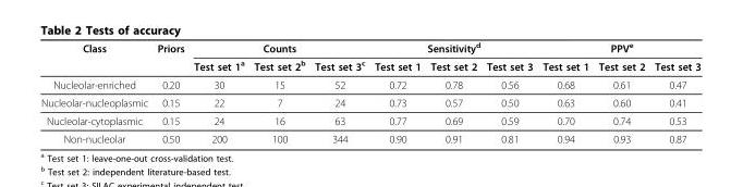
<table><thead><tr><td rowspan="2">Class</td><td rowspan="2">Priors</td><td colspan="3">Counts</td><td colspan="3">Sensitivity<sup>d</sup></td><td colspan="3">PPV<sup>e</sup></td></tr><tr><td>Test set 1<sup>a</sup></td><td>Test set 2<sup>b</sup></td><td>Test set 3<sup>c</sup></td><td>Test set 1</td><td>Test set 2</td><td>Test set 3</td><td>Test set 1</td><td>Test set 2</td><td>Test set 3</td></tr></thead><tbody><tr><td>Nucleolar-enriched</td><td>0.20</td><td>30</td><td>15</td><td>52</td><td>0.72</td><td>0.78</td><td>0.56</td><td>0.68</td><td>0.61</td><td>0.47</td></tr><tr><td>Nucleolar-nucleoplasmic</td><td>0.15</td><td>22</td><td>7</td><td>24</td><td>0.73</td><td>0.57</td><td>0.50</td><td>0.63</td><td>0.60</td><td>0.41</td></tr><tr><td>Nucleolar-cytoplasmic</td><td>0.15</td><td>24</td><td>16</td><td>63</td><td>0.77</td><td>0.69</td><td>0.59</td><td>0.70</td><td>0.74</td><td>0.53</td></tr><tr><td>Non-nucleolar</td><td>0.50</td><td>200</td><td>100</td><td>344</td><td>0.90</td><td>0.91</td><td>0.81</td><td>0.94</td><td>0.93</td><td>0.87</td></tr></tbody></table>